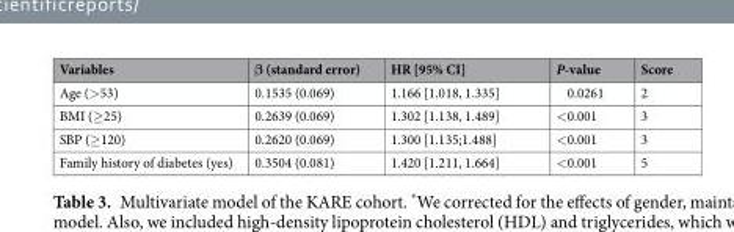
<table><thead><tr><td>Variables</td><td>β (standard error)</td><td>HR [95% CI]</td><td>P-value</td><td>Score</td></tr></thead><tbody><tr><td>Age (&gt;53)</td><td>0.1535 (0.069)</td><td>1.166 [1.018, 1.335]</td><td>0.0261</td><td>2</td></tr><tr><td>BMI (≥25)</td><td>0.2639 (0.069)</td><td>1.302 [1.138, 1.489]</td><td>&lt;0.001</td><td>3</td></tr><tr><td>SBP (≥120)</td><td>0.2620 (0.069)</td><td>1.300 [1.135;1.488]</td><td>&lt;0.001</td><td>3</td></tr><tr><td>Family history of diabetes (yes)</td><td>0.3504 (0.081)</td><td>1.420 [1.211, 1.664]</td><td>&lt;0.001</td><td>5</td></tr></tbody></table>